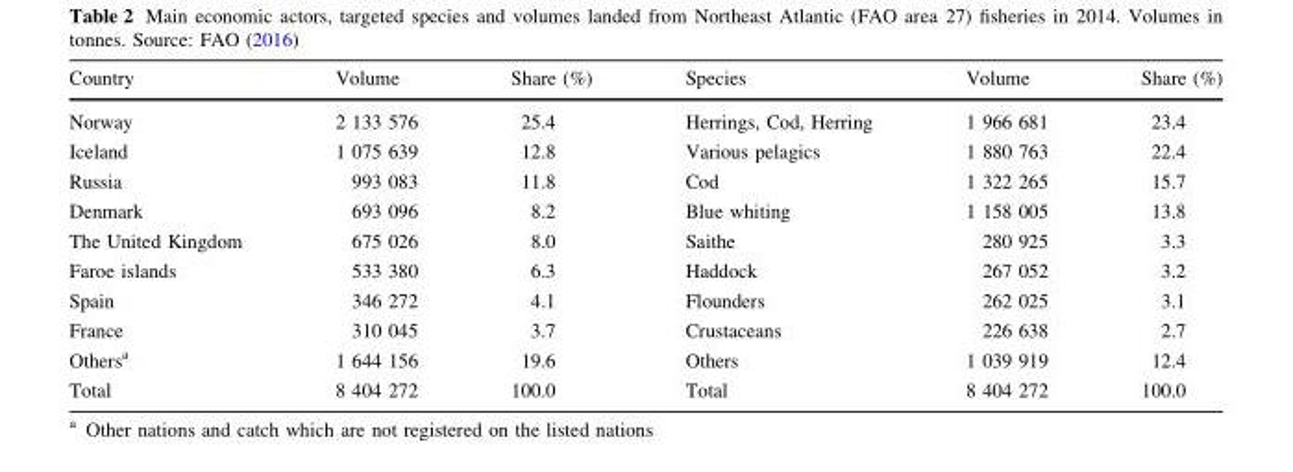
<table><thead><tr><td>Country</td><td>Volume</td><td>Share (%)</td><td>Species</td><td>Volume</td><td>Share (%)</td></tr></thead><tbody><tr><td>Norway</td><td>2 133 576</td><td>25.4</td><td>Herrings, Cod, Herring</td><td>1 966 681</td><td>23.4</td></tr><tr><td>Iceland</td><td>1 075 639</td><td>12.8</td><td>Various pelagics</td><td>1 880 763</td><td>22.4</td></tr><tr><td>Russia</td><td>993 083</td><td>11.8</td><td>Cod</td><td>1 322 265</td><td>15.7</td></tr><tr><td>Denmark</td><td>693 096</td><td>8.2</td><td>Blue whiting</td><td>1 158 005</td><td>13.8</td></tr><tr><td>The United Kingdom</td><td>675 026</td><td>8.0</td><td>Saithe</td><td>280 925</td><td>3.3</td></tr><tr><td>Faroe islands</td><td>533 380</td><td>6.3</td><td>Haddock</td><td>267 052</td><td>3.2</td></tr><tr><td>Spain</td><td>346 272</td><td>4.1</td><td>Flounders</td><td>262 025</td><td>3.1</td></tr><tr><td>France</td><td>310 045</td><td>3.7</td><td>Crustaceans</td><td>226 638</td><td>2.7</td></tr><tr><td>Others<sup>a</sup></td><td>1 644 156</td><td>19.6</td><td>Others</td><td>1 039 919</td><td>12.4</td></tr><tr><td>Total</td><td>8 404 272</td><td>100.0</td><td>Total</td><td>8 404 272</td><td>100.0</td></tr></tbody></table>